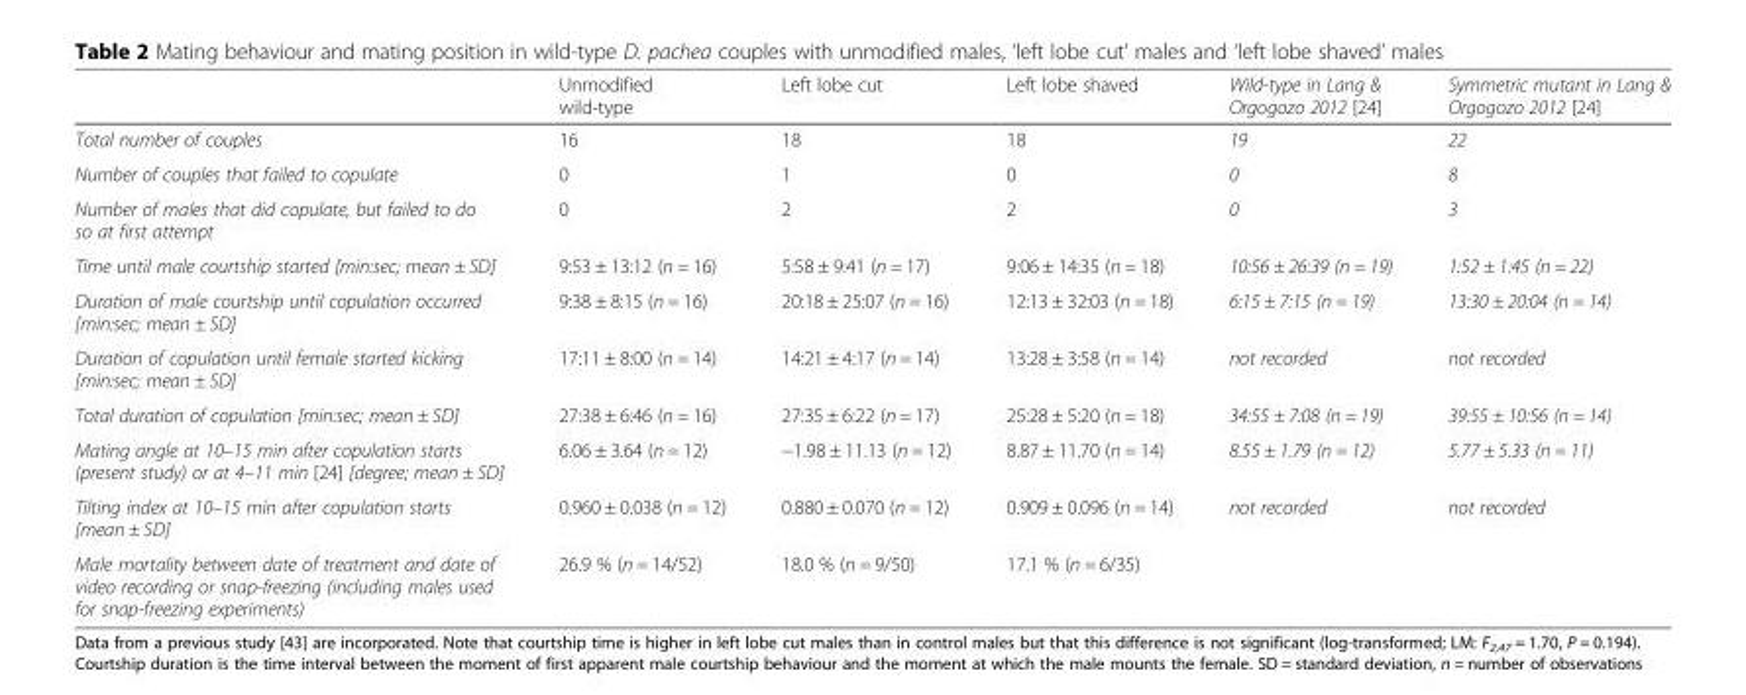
<table><thead><tr><td></td><td>Unmodified wild-type</td><td>Left lobe cut</td><td>Left lobe shaved</td><td>Wild-type in Lang &amp; Orgogozo 2012 [24]</td><td>Symmetric mutant in Lang &amp; Orgogozo 2012 [24]</td></tr></thead><tbody><tr><td>Total number of couples</td><td>16</td><td>18</td><td>18</td><td>19</td><td>22</td></tr><tr><td>Number of couples that failed to copulate</td><td>0</td><td>1</td><td>0</td><td>0</td><td>8</td></tr><tr><td>Number of males that did copulate, but failed to do so at first attempt</td><td>0</td><td>2</td><td>2</td><td>0</td><td>3</td></tr><tr><td>Time until male courtship started [min:sec; mean ± SD]</td><td>9:53 ± 13:12 (n = 16)</td><td>5:58 ± 9:41 (n = 17)</td><td>9:06 ± 14:35 (n = 18)</td><td>10:56 ± 26:39 (n = 19)</td><td>1:52 ± 1:45 (n = 22)</td></tr><tr><td>Duration of male courtship until copulation occurred [min:sec; mean ± SD]</td><td>9:38 ± 8:15 (n = 16)</td><td>20:18 ± 25:07 (n = 16)</td><td>12:13 ± 32:03 (n = 18)</td><td>6:15 ± 7:15 (n = 19)</td><td>13:30 ± 20:04 (n = 14)</td></tr><tr><td>Duration of copulation until female started kicking [min:sec; mean ± SD]</td><td>17:11 ± 8:00 (n = 14)</td><td>14:21 ± 4:17 (n = 14)</td><td>13:28 ± 3:58 (n = 14)</td><td>not recorded</td><td>not recorded</td></tr><tr><td>Total duration of copulation [min:sec; mean ± SD]</td><td>27:38 ± 6:46 (n = 16)</td><td>27:35 ± 6:22 (n = 17)</td><td>25:28 ± 5:20 (n = 18)</td><td>34:55 ± 7:08 (n = 19)</td><td>39:55 ± 10:56 (n = 14)</td></tr><tr><td>Mating angle at 10–15 min after copulation starts (present study) or at 4–11 min [24] [degree; mean ± SD]</td><td>6.06 ± 3.64 (n = 12)</td><td>−1.98 ± 11.13 (n = 12)</td><td>8.87 ± 11.70 (n = 14)</td><td>8.55 ± 1.79 (n = 12)</td><td>5.77 ± 5.33 (n = 11)</td></tr><tr><td>Tilting index at 10–15 min after copulation starts [mean ± SD]</td><td>0.960 ± 0.038 (n = 12)</td><td>0.880 ± 0.070 (n = 12)</td><td>0.909 ± 0.096 (n = 14)</td><td>not recorded</td><td>not recorded</td></tr><tr><td>Male mortality between date of treatment and date of video recording or snap-freezing (including males used for snap-freezing experiments)</td><td>26.9 % (n = 14/52)</td><td>18.0 % (n = 9/50)</td><td>17.1 % (n = 6/35)</td><td></td><td></td></tr></tbody></table>